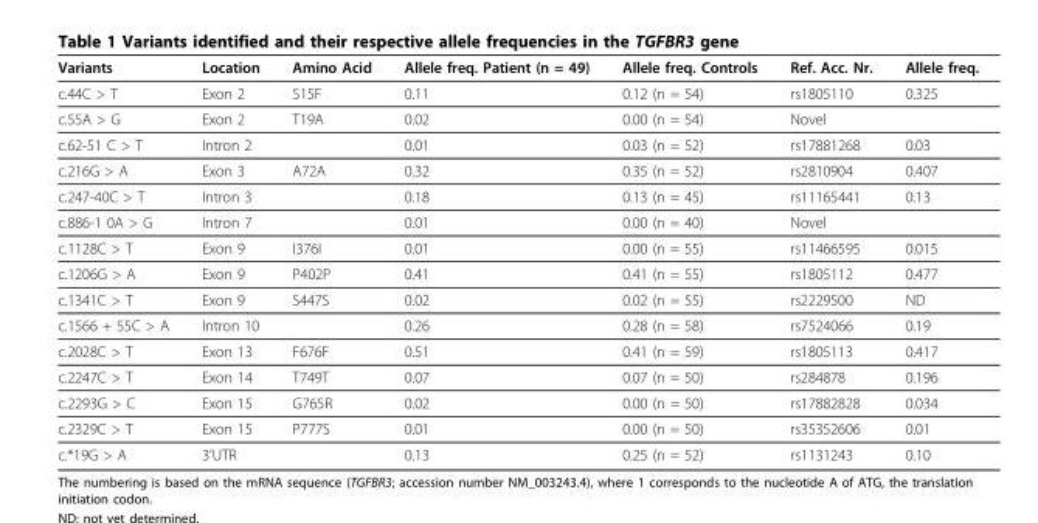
<table><thead><tr><td>Variants</td><td>Location</td><td>Amino Acid</td><td>Allele freq. Patient (n = 49)</td><td>Allele freq. Controls</td><td>Ref. Acc. Nr.</td><td>Allele freq.</td></tr></thead><tbody><tr><td>c.44C &gt; T</td><td>Exon 2</td><td>S15F</td><td>0.11</td><td>0.12 (n = 54)</td><td>rs1805110</td><td>0.325</td></tr><tr><td>c.55A &gt; G</td><td>Exon 2</td><td>T19A</td><td>0.02</td><td>0.00 (n = 54)</td><td>Novel</td><td></td></tr><tr><td>c.62-51 C &gt; T</td><td>Intron 2</td><td></td><td>0.01</td><td>0.03 (n = 52)</td><td>rs17881268</td><td>0.03</td></tr><tr><td>c.216G &gt; A</td><td>Exon 3</td><td>A72A</td><td>0.32</td><td>0.35 (n = 52)</td><td>rs2810904</td><td>0.407</td></tr><tr><td>c.247-40C &gt; T</td><td>Intron 3</td><td></td><td>0.18</td><td>0.13 (n = 45)</td><td>rs11165441</td><td>0.13</td></tr><tr><td>c.886-1 0A &gt; G</td><td>Intron 7</td><td></td><td>0.01</td><td>0.00 (n = 40)</td><td>Novel</td><td></td></tr><tr><td>c.1128C &gt; T</td><td>Exon 9</td><td>I376I</td><td>0.01</td><td>0.00 (n = 55)</td><td>rs11466595</td><td>0.015</td></tr><tr><td>c.1206G &gt; A</td><td>Exon 9</td><td>P402P</td><td>0.41</td><td>0.41 (n = 55)</td><td>rs1805112</td><td>0.477</td></tr><tr><td>c.1341C &gt; T</td><td>Exon 9</td><td>S447S</td><td>0.02</td><td>0.02 (n = 55)</td><td>rs2229500</td><td>ND</td></tr><tr><td>c.1566 + 55C &gt; A</td><td>Intron 10</td><td></td><td>0.26</td><td>0.28 (n = 58)</td><td>rs7524066</td><td>0.19</td></tr><tr><td>c.2028C &gt; T</td><td>Exon 13</td><td>F676F</td><td>0.51</td><td>0.41 (n = 59)</td><td>rs1805113</td><td>0.417</td></tr><tr><td>c.2247C &gt; T</td><td>Exon 14</td><td>T749T</td><td>0.07</td><td>0.07 (n = 50)</td><td>rs284878</td><td>0.196</td></tr><tr><td>c.2293G &gt; C</td><td>Exon 15</td><td>G765R</td><td>0.02</td><td>0.00 (n = 50)</td><td>rs17882828</td><td>0.034</td></tr><tr><td>c.2329C &gt; T</td><td>Exon 15</td><td>P777S</td><td>0.01</td><td>0.00 (n = 50)</td><td>rs35352606</td><td>0.01</td></tr><tr><td>c.*19G &gt; A</td><td>3’UTR</td><td></td><td>0.13</td><td>0.25 (n = 52)</td><td>rs1131243</td><td>0.10</td></tr></tbody></table>